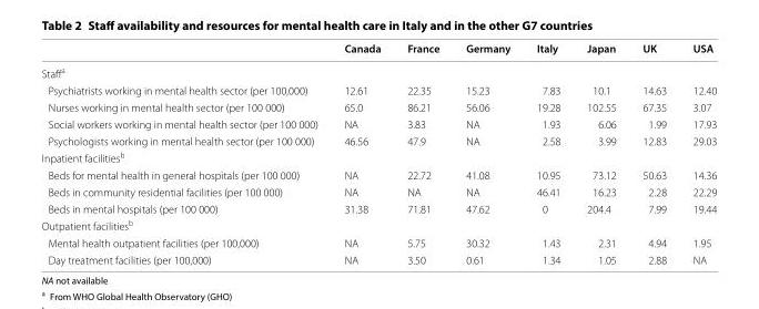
<table><thead><tr><td></td><td>Canada</td><td>France</td><td>Germany</td><td>Italy</td><td>Japan</td><td>UK</td><td>USA</td></tr></thead><tbody><tr><td colspan="8">Staff<sup>a</sup></td></tr><tr><td>Psychiatrists working in mental health sector (per 100,000)</td><td>12.61</td><td>22.35</td><td>15.23</td><td>7.83</td><td>10.1</td><td>14.63</td><td>12.40</td></tr><tr><td>Nurses working in mental health sector (per 100 000)</td><td>65.0</td><td>86.21</td><td>56.06</td><td>19.28</td><td>102.55</td><td>67.35</td><td>3.07</td></tr><tr><td>Social workers working in mental health sector (per 100 000)</td><td>NA</td><td>3.83</td><td>NA</td><td>1.93</td><td>6.06</td><td>1.99</td><td>17.93</td></tr><tr><td>Psychologists working in mental health sector (per 100 000)</td><td>46.56</td><td>47.9</td><td>NA</td><td>2.58</td><td>3.99</td><td>12.83</td><td>29.03</td></tr><tr><td colspan="8">Inpatient facilities<sup>b</sup></td></tr><tr><td>Beds for mental health in general hospitals (per 100 000)</td><td>NA</td><td>22.72</td><td>41.08</td><td>10.95</td><td>73.12</td><td>50.63</td><td>14.36</td></tr><tr><td>Beds in community residential facilities (per 100 000)</td><td>NA</td><td>NA</td><td>NA</td><td>46.41</td><td>16.23</td><td>2.28</td><td>22.29</td></tr><tr><td>Beds in mental hospitals (per 100 000)</td><td>31.38</td><td>71.81</td><td>47.62</td><td>0</td><td>204.4</td><td>7.99</td><td>19.44</td></tr><tr><td colspan="8">Outpatient facilities<sup>b</sup></td></tr><tr><td>Mental health outpatient facilities (per 100,000)</td><td>NA</td><td>5.75</td><td>30.32</td><td>1.43</td><td>2.31</td><td>4.94</td><td>1.95</td></tr><tr><td>Day treatment facilities (per 100,000)</td><td>NA</td><td>3.50</td><td>0.61</td><td>1.34</td><td>1.05</td><td>2.88</td><td>NA</td></tr></tbody></table>